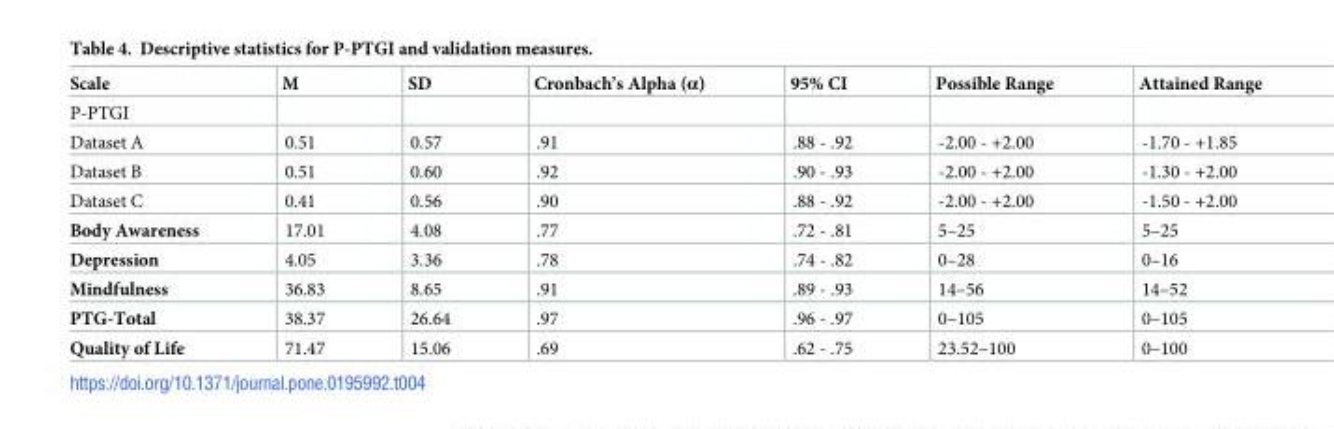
<table><thead><tr><td>Scale</td><td>M</td><td>SD</td><td>Cronbach’s Alpha (α)</td><td>95% CI</td><td>Possible Range</td><td>Attained Range</td></tr></thead><tbody><tr><td colspan="7">P-PTGI</td></tr><tr><td>Dataset A</td><td>0.51</td><td>0.57</td><td>.91</td><td>.88 - .92</td><td>-2.00 - +2.00</td><td>-1.70 - +1.85</td></tr><tr><td>Dataset B</td><td>0.51</td><td>0.60</td><td>.92</td><td>.90 - .93</td><td>-2.00 - +2.00</td><td>-1.30 - +2.00</td></tr><tr><td>Dataset C</td><td>0.41</td><td>0.56</td><td>.90</td><td>.88 - .92</td><td>-2.00 - +2.00</td><td>-1.50 - +2.00</td></tr><tr><td>Body Awareness</td><td>17.01</td><td>4.08</td><td>.77</td><td>.72 - .81</td><td>5–25</td><td>5–25</td></tr><tr><td>Depression</td><td>4.05</td><td>3.36</td><td>.78</td><td>.74 - .82</td><td>0–28</td><td>0–16</td></tr><tr><td>Mindfulness</td><td>36.83</td><td>8.65</td><td>.91</td><td>.89 - .93</td><td>14–56</td><td>14–52</td></tr><tr><td>PTG-Total</td><td>38.37</td><td>26.64</td><td>.97</td><td>.96 - .97</td><td>0–105</td><td>0–105</td></tr><tr><td>Quality of Life</td><td>71.47</td><td>15.06</td><td>.69</td><td>.62 - .75</td><td>23.52–100</td><td>0–100</td></tr></tbody></table>